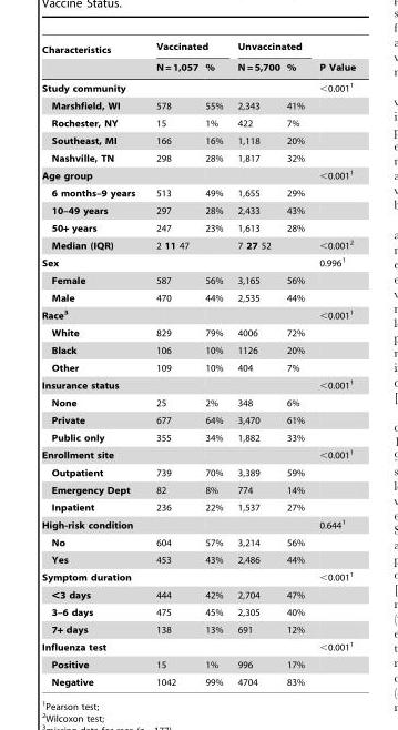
<table><thead><tr><td rowspan="2">Characteristics</td><td colspan="2">Vaccinated</td><td colspan="2">Unvaccinated</td><td rowspan="2">P Value</td></tr><tr><td>N = 1,057</td><td>%</td><td>N = 5,700</td><td>%</td></tr></thead><tbody><tr><td>Study community</td><td></td><td></td><td></td><td></td><td>&lt;0.001<sup>1</sup></td></tr><tr><td>Marshfield, WI</td><td>578</td><td>55%</td><td>2,343</td><td>41%</td><td></td></tr><tr><td>Rochester, NY</td><td>15</td><td>1%</td><td>422</td><td>7%</td><td></td></tr><tr><td>Southeast, MI</td><td>166</td><td>16%</td><td>1,118</td><td>20%</td><td></td></tr><tr><td>Nashville, TN</td><td>298</td><td>28%</td><td>1,817</td><td>32%</td><td></td></tr><tr><td>Age group</td><td></td><td></td><td></td><td></td><td>&lt;0.001<sup>1</sup></td></tr><tr><td>6 months–9 years</td><td>513</td><td>49%</td><td>1,655</td><td>29%</td><td></td></tr><tr><td>10–49 years</td><td>297</td><td>28%</td><td>2,433</td><td>43%</td><td></td></tr><tr><td>50+ years</td><td>247</td><td>23%</td><td>1,613</td><td>28%</td><td></td></tr><tr><td>Median (IQR)</td><td colspan="2">2 11 47</td><td colspan="2">7 27 52</td><td>&lt;0.001<sup>2</sup></td></tr><tr><td>Sex</td><td></td><td></td><td></td><td></td><td>0.996<sup>1</sup></td></tr><tr><td>Female</td><td>587</td><td>56%</td><td>3,165</td><td>56%</td><td></td></tr><tr><td>Male</td><td>470</td><td>44%</td><td>2,535</td><td>44%</td><td></td></tr><tr><td>Race3</td><td></td><td></td><td></td><td></td><td>&lt;0.001<sup>1</sup></td></tr><tr><td>White</td><td>829</td><td>79%</td><td>4006</td><td>72%</td><td></td></tr><tr><td>Black</td><td>106</td><td>10%</td><td>1126</td><td>20%</td><td></td></tr><tr><td>Other</td><td>109</td><td>10%</td><td>404</td><td>7%</td><td></td></tr><tr><td>Insurance status</td><td></td><td></td><td></td><td></td><td>&lt;0.001<sup>1</sup></td></tr><tr><td>None</td><td>25</td><td>2%</td><td>348</td><td>6%</td><td></td></tr><tr><td>Private</td><td>677</td><td>64%</td><td>3,470</td><td>61%</td><td></td></tr><tr><td>Public only</td><td>355</td><td>34%</td><td>1,882</td><td>33%</td><td></td></tr><tr><td>Enrollment site</td><td></td><td></td><td></td><td></td><td>&lt;0.001<sup>1</sup></td></tr><tr><td>Outpatient</td><td>739</td><td>70%</td><td>3,389</td><td>59%</td><td></td></tr><tr><td>Emergency Dept</td><td>82</td><td>8%</td><td>774</td><td>14%</td><td></td></tr><tr><td>Inpatient</td><td>236</td><td>22%</td><td>1,537</td><td>27%</td><td></td></tr><tr><td>High-risk condition</td><td></td><td></td><td></td><td></td><td>0.644<sup>1</sup></td></tr><tr><td>No</td><td>604</td><td>57%</td><td>3,214</td><td>56%</td><td></td></tr><tr><td>Yes</td><td>453</td><td>43%</td><td>2,486</td><td>44%</td><td></td></tr><tr><td>Symptom duration</td><td></td><td></td><td></td><td></td><td>&lt;0.001<sup>1</sup></td></tr><tr><td>&lt;3 days</td><td>444</td><td>42%</td><td>2,704</td><td>47%</td><td></td></tr><tr><td>3–6 days</td><td>475</td><td>45%</td><td>2,305</td><td>40%</td><td></td></tr><tr><td>7+ days</td><td>138</td><td>13%</td><td>691</td><td>12%</td><td></td></tr><tr><td>Influenza test</td><td></td><td></td><td></td><td></td><td>&lt;0.001<sup>1</sup></td></tr><tr><td>Positive</td><td>15</td><td>1%</td><td>996</td><td>17%</td><td></td></tr><tr><td>Negative</td><td>1042</td><td>99%</td><td>4704</td><td>83%</td><td></td></tr></tbody></table>